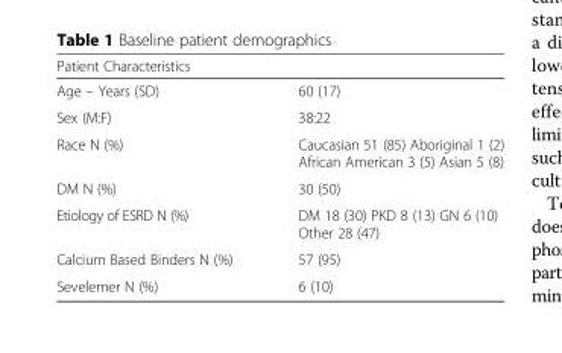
<table><thead><tr><td>Patient Characteristics</td><td></td></tr></thead><tbody><tr><td>Age – Years (SD)</td><td>60 (17)</td></tr><tr><td>Sex (M:F)</td><td>38:22</td></tr><tr><td>Race N (%)</td><td>Caucasian 51 (85) Aboriginal 1 (2) African American 3 (5) Asian 5 (8)</td></tr><tr><td>DM N (%)</td><td>30 (50)</td></tr><tr><td>Etiology of ESRD N (%)</td><td>DM 18 (30) PKD 8 (13) GN 6 (10) Other 28 (47)</td></tr><tr><td>Calcium Based Binders N (%)</td><td>57 (95)</td></tr><tr><td>Sevelemer N (%)</td><td>6 (10)</td></tr></tbody></table>